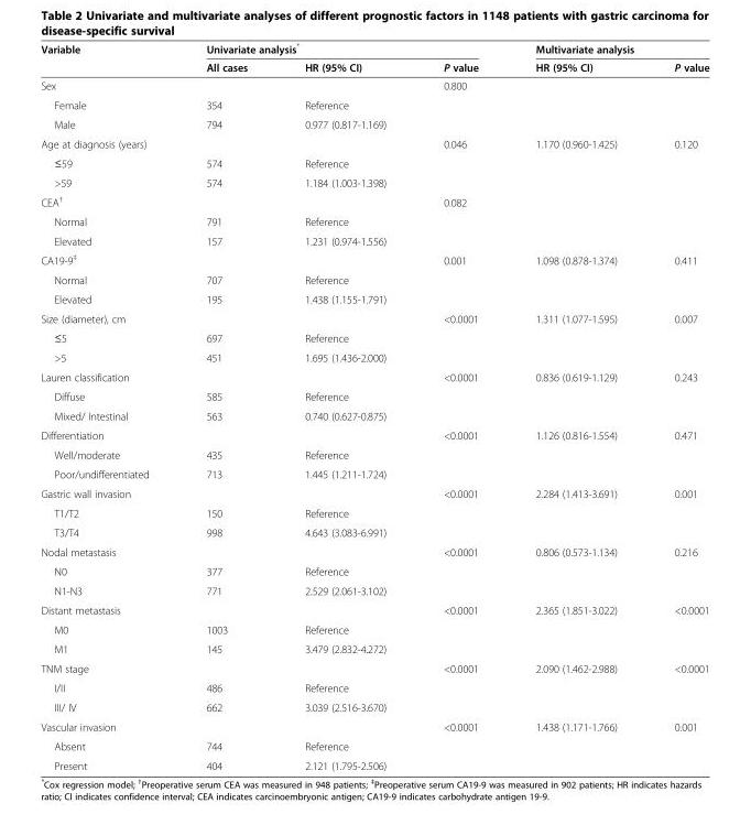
<table><thead><tr><td rowspan="2">Variable</td><td colspan="3">Univariate analysis*</td><td colspan="2">Multivariate analysis</td></tr><tr><td>All cases</td><td>HR (95% CI)</td><td>P value</td><td>HR (95% CI)</td><td>P value</td></tr></thead><tbody><tr><td>Sex</td><td></td><td></td><td>0.800</td><td></td><td></td></tr><tr><td>Female</td><td>354</td><td>Reference</td><td></td><td></td><td></td></tr><tr><td>Male</td><td>794</td><td>0.977 (0.817-1.169)</td><td></td><td></td><td></td></tr><tr><td>Age at diagnosis (years)</td><td></td><td></td><td>0.046</td><td>1.170 (0.960-1.425)</td><td>0.120</td></tr><tr><td>≤59</td><td>574</td><td>Reference</td><td></td><td></td><td></td></tr><tr><td>&gt;59</td><td>574</td><td>1.184 (1.003-1.398)</td><td></td><td></td><td></td></tr><tr><td>CEA<sup>†</sup></td><td></td><td></td><td>0.082</td><td></td><td></td></tr><tr><td>Normal</td><td>791</td><td>Reference</td><td></td><td></td><td></td></tr><tr><td>Elevated</td><td>157</td><td>1.231 (0.974-1.556)</td><td></td><td></td><td></td></tr><tr><td>CA19-9<sup>‡</sup></td><td></td><td></td><td>0.001</td><td>1.098 (0.878-1.374)</td><td>0.411</td></tr><tr><td>Normal</td><td>707</td><td>Reference</td><td></td><td></td><td></td></tr><tr><td>Elevated</td><td>195</td><td>1.438 (1.155-1.791)</td><td></td><td></td><td></td></tr><tr><td>Size (diameter), cm</td><td></td><td></td><td>&lt;0.0001</td><td>1.311 (1.077-1.595)</td><td>0.007</td></tr><tr><td>≤5</td><td>697</td><td>Reference</td><td></td><td></td><td></td></tr><tr><td>&gt;5</td><td>451</td><td>1.695 (1.436-2.000)</td><td></td><td></td><td></td></tr><tr><td>Lauren classification</td><td></td><td></td><td>&lt;0.0001</td><td>0.836 (0.619-1.129)</td><td>0.243</td></tr><tr><td>Diffuse</td><td>585</td><td>Reference</td><td></td><td></td><td></td></tr><tr><td>Mixed/ Intestinal</td><td>563</td><td>0.740 (0.627-0.875)</td><td></td><td></td><td></td></tr><tr><td>Differentiation</td><td></td><td></td><td>&lt;0.0001</td><td>1.126 (0.816-1.554)</td><td>0.471</td></tr><tr><td>Well/moderate</td><td>435</td><td>Reference</td><td></td><td></td><td></td></tr><tr><td>Poor/undifferentiated</td><td>713</td><td>1.445 (1.211-1.724)</td><td></td><td></td><td></td></tr><tr><td>Gastric wall invasion</td><td></td><td></td><td>&lt;0.0001</td><td>2.284 (1.413-3.691)</td><td>0.001</td></tr><tr><td>T1/T2</td><td>150</td><td>Reference</td><td></td><td></td><td></td></tr><tr><td>T3/T4</td><td>998</td><td>4.643 (3.083-6.991)</td><td></td><td></td><td></td></tr><tr><td>Nodal metastasis</td><td></td><td></td><td>&lt;0.0001</td><td>0.806 (0.573-1.134)</td><td>0.216</td></tr><tr><td>N0</td><td>377</td><td>Reference</td><td></td><td></td><td></td></tr><tr><td>N1-N3</td><td>771</td><td>2.529 (2.061-3.102)</td><td></td><td></td><td></td></tr><tr><td>Distant metastasis</td><td></td><td></td><td>&lt;0.0001</td><td>2.365 (1.851-3.022)</td><td>&lt;0.0001</td></tr><tr><td>M0</td><td>1003</td><td>Reference</td><td></td><td></td><td></td></tr><tr><td>M1</td><td>145</td><td>3.479 (2.832-4.272)</td><td></td><td></td><td></td></tr><tr><td>TNM stage</td><td></td><td></td><td>&lt;0.0001</td><td>2.090 (1.462-2.988)</td><td>&lt;0.0001</td></tr><tr><td>I/II</td><td>486</td><td>Reference</td><td></td><td></td><td></td></tr><tr><td>III/ IV</td><td>662</td><td>3.039 (2.516-3.670)</td><td></td><td></td><td></td></tr><tr><td>Vascular invasion</td><td></td><td></td><td>&lt;0.0001</td><td>1.438 (1.171-1.766)</td><td>0.001</td></tr><tr><td>Absent</td><td>744</td><td>Reference</td><td></td><td></td><td></td></tr><tr><td>Present</td><td>404</td><td>2.121 (1.795-2.506)</td><td></td><td></td><td></td></tr></tbody></table>